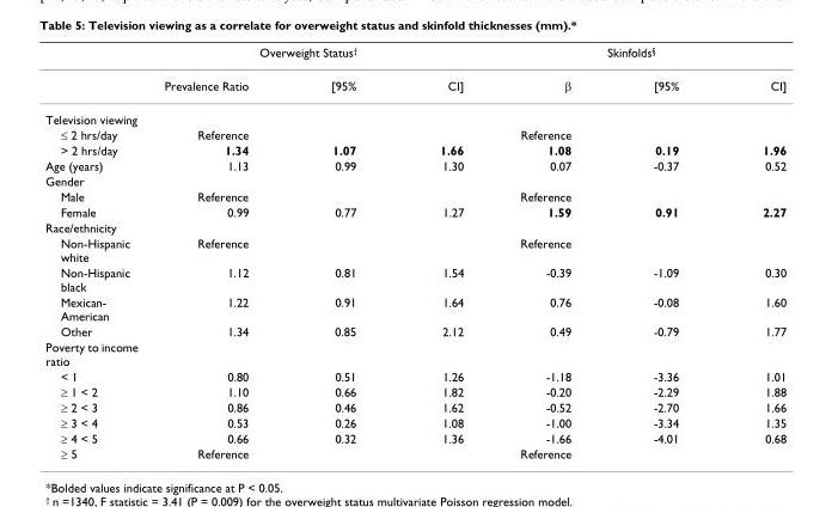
<table><thead><tr><td rowspan="2"></td><td colspan="3">Overweight Status<sup>†</sup></td><td colspan="3">Skinfolds<sup>§</sup></td></tr><tr><td>Prevalence Ratio</td><td>[95%</td><td>CI]</td><td>β</td><td>[95%</td><td>CI]</td></tr></thead><tbody><tr><td colspan="7">Television viewing</td></tr><tr><td>≤ 2 hrs/day</td><td>Reference</td><td></td><td></td><td>Reference</td><td></td><td></td></tr><tr><td>&gt; 2 hrs/day</td><td>1.34</td><td>1.07</td><td>1.66</td><td>1.08</td><td>0.19</td><td>1.96</td></tr><tr><td>Age (years)</td><td>1.13</td><td>0.99</td><td>1.30</td><td>0.07</td><td>-0.37</td><td>0.52</td></tr><tr><td colspan="7">Gender</td></tr><tr><td>Male</td><td>Reference</td><td></td><td></td><td>Reference</td><td></td><td></td></tr><tr><td>Female</td><td>0.99</td><td>0.77</td><td>1.27</td><td>1.59</td><td>0.91</td><td>2.27</td></tr><tr><td colspan="7">Race/ethnicity</td></tr><tr><td>Non-Hispanic white</td><td>Reference</td><td></td><td></td><td>Reference</td><td></td><td></td></tr><tr><td>Non-Hispanic black</td><td>1.12</td><td>0.81</td><td>1.54</td><td>-0.39</td><td>-1.09</td><td>0.30</td></tr><tr><td>Mexican- American</td><td>1.22</td><td>0.91</td><td>1.64</td><td>0.76</td><td>-0.08</td><td>1.60</td></tr><tr><td>Other</td><td>1.34</td><td>0.85</td><td>2.12</td><td>0.49</td><td>-0.79</td><td>1.77</td></tr><tr><td colspan="7">Poverty to income ratio</td></tr><tr><td>&lt; 1</td><td>0.80</td><td>0.51</td><td>1.26</td><td>-1.18</td><td>-3.36</td><td>1.01</td></tr><tr><td>≥ 1 &lt; 2</td><td>1.10</td><td>0.66</td><td>1.82</td><td>-0.20</td><td>-2.29</td><td>1.88</td></tr><tr><td>≥ 2 &lt; 3</td><td>0.86</td><td>0.46</td><td>1.62</td><td>-0.52</td><td>-2.70</td><td>1.66</td></tr><tr><td>≥ 3 &lt; 4</td><td>0.53</td><td>0.26</td><td>1.08</td><td>-1.00</td><td>-3.34</td><td>1.35</td></tr><tr><td>≥ 4 &lt; 5</td><td>0.66</td><td>0.32</td><td>1.36</td><td>-1.66</td><td>-4.01</td><td>0.68</td></tr><tr><td>≥ 5</td><td>Reference</td><td></td><td></td><td>Reference</td><td></td><td></td></tr></tbody></table>